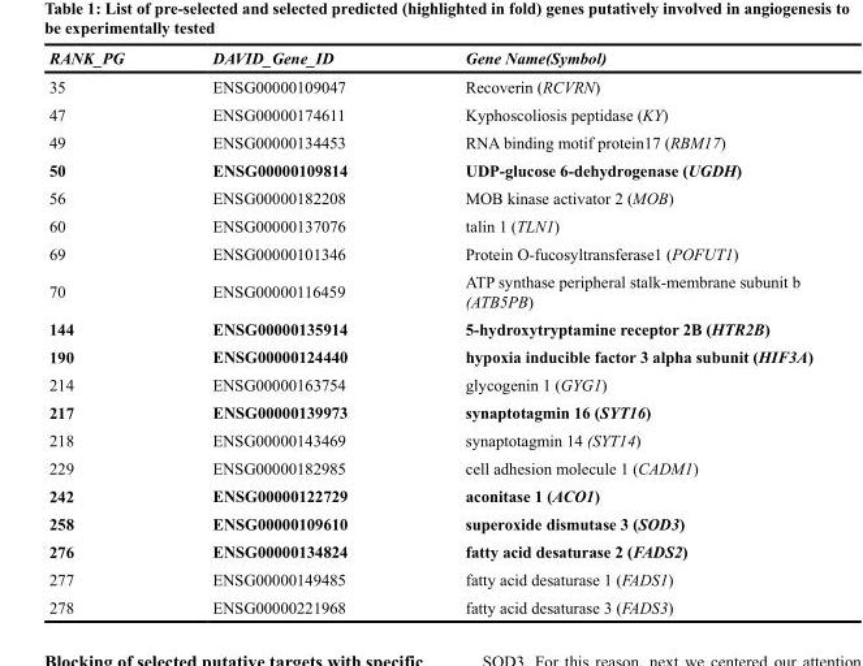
<table><thead><tr><td>RANK_PG</td><td>DAVID_Gene_ID</td><td>Gene Name(Symbol)</td></tr></thead><tbody><tr><td>35</td><td>ENSG00000109047</td><td>Recoverin (RCVRN)</td></tr><tr><td>47</td><td>ENSG00000174611</td><td>Kyphoscoliosis peptidase (KY)</td></tr><tr><td>49</td><td>ENSG00000134453</td><td>RNA binding motif protein17 (RBM17)</td></tr><tr><td>50</td><td>ENSG00000109814</td><td>UDP-glucose 6-dehydrogenase (UGDH)</td></tr><tr><td>56</td><td>ENSG00000182208</td><td>MOB kinase activator 2 (MOB)</td></tr><tr><td>60</td><td>ENSG00000137076</td><td>talin 1 (TLN1)</td></tr><tr><td>69</td><td>ENSG00000101346</td><td>Protein O-fucosyltransferase1 (POFUT1)</td></tr><tr><td>70</td><td>ENSG00000116459</td><td>ATP synthase peripheral stalk-membrane subunit b (ATB5PB)</td></tr><tr><td>144</td><td>ENSG00000135914</td><td>5-hydroxytryptamine receptor 2B (HTR2B)</td></tr><tr><td>190</td><td>ENSG00000124440</td><td>hypoxia inducible factor 3 alpha subunit (HIF3A)</td></tr><tr><td>214</td><td>ENSG00000163754</td><td>glycogenin 1 (GYG1)</td></tr><tr><td>217</td><td>ENSG00000139973</td><td>synaptotagmin 16 (SYT16)</td></tr><tr><td>218</td><td>ENSG00000143469</td><td>synaptotagmin 14 (SYT14)</td></tr><tr><td>229</td><td>ENSG00000182985</td><td>cell adhesion molecule 1 (CADM1)</td></tr><tr><td>242</td><td>ENSG00000122729</td><td>aconitase 1 (ACO1)</td></tr><tr><td>258</td><td>ENSG00000109610</td><td>superoxide dismutase 3 (SOD3)</td></tr><tr><td>276</td><td>ENSG00000134824</td><td>fatty acid desaturase 2 (FADS2)</td></tr><tr><td>277</td><td>ENSG00000149485</td><td>fatty acid desaturase 1 (FADS1)</td></tr><tr><td>278</td><td>ENSG00000221968</td><td>fatty acid desaturase 3 (FADS3)</td></tr></tbody></table>